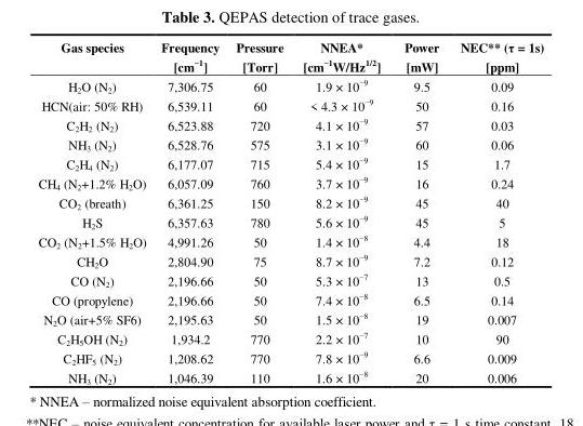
<table><thead><tr><td>Gas species</td><td>Frequency [cm<sup>−1</sup>]</td><td>Pressure [Torr]</td><td>NNEA* [cm<sup>−1</sup>W/Hz<sup>1/2</sup>]</td><td>Power [mW]</td><td>NEC** (τ = 1s) [ppm]</td></tr></thead><tbody><tr><td>H<sub>2</sub>O (N<sub>2</sub>)</td><td>7,306.75</td><td>60</td><td>1.9 × 10<sup>−9</sup></td><td>9.5</td><td>0.09</td></tr><tr><td>HCN(air: 50% RH)</td><td>6,539.11</td><td>60</td><td>&lt; 4.3 × 10<sup>−9</sup></td><td>50</td><td>0.16</td></tr><tr><td>C<sub>2</sub>H<sub>2</sub> (N<sub>2</sub>)</td><td>6,523.88</td><td>720</td><td>4.1 × 10<sup>−9</sup></td><td>57</td><td>0.03</td></tr><tr><td>NH<sub>3</sub> (N<sub>2</sub>)</td><td>6,528.76</td><td>575</td><td>3.1 × 10<sup>−9</sup></td><td>60</td><td>0.06</td></tr><tr><td>C<sub>2</sub>H<sub>4</sub> (N<sub>2</sub>)</td><td>6,177.07</td><td>715</td><td>5.4 × 10<sup>−9</sup></td><td>15</td><td>1.7</td></tr><tr><td>CH<sub>4</sub> (N<sub>2</sub>+1.2% H<sub>2</sub>O)</td><td>6,057.09</td><td>760</td><td>3.7 × 10<sup>−9</sup></td><td>16</td><td>0.24</td></tr><tr><td>CO<sub>2</sub> (breath)</td><td>6,361.25</td><td>150</td><td>8.2 × 10<sup>−9</sup></td><td>45</td><td>40</td></tr><tr><td>H<sub>2</sub>S</td><td>6,357.63</td><td>780</td><td>5.6 × 10<sup>−9</sup></td><td>45</td><td>5</td></tr><tr><td>CO<sub>2</sub> (N<sub>2</sub>+1.5% H<sub>2</sub>O)</td><td>4,991.26</td><td>50</td><td>1.4 × 10<sup>−8</sup></td><td>4.4</td><td>18</td></tr><tr><td>CH<sub>2</sub>O</td><td>2,804.90</td><td>75</td><td>8.7 × 10<sup>−9</sup></td><td>7.2</td><td>0.12</td></tr><tr><td>CO (N<sub>2</sub>)</td><td>2,196.66</td><td>50</td><td>5.3 × 10<sup>−7</sup></td><td>13</td><td>0.5</td></tr><tr><td>CO (propylene)</td><td>2,196.66</td><td>50</td><td>7.4 × 10<sup>−8</sup></td><td>6.5</td><td>0.14</td></tr><tr><td>N<sub>2</sub>O (air+5% SF6)</td><td>2,195.63</td><td>50</td><td>1.5 × 10<sup>−8</sup></td><td>19</td><td>0.007</td></tr><tr><td>C<sub>2</sub>H<sub>5</sub>OH (N<sub>2</sub>)</td><td>1,934.2</td><td>770</td><td>2.2 × 10<sup>−7</sup></td><td>10</td><td>90</td></tr><tr><td>C<sub>2</sub>HF<sub>5</sub> (N<sub>2</sub>)</td><td>1,208.62</td><td>770</td><td>7.8 × 10<sup>−9</sup></td><td>6.6</td><td>0.009</td></tr><tr><td>NH<sub>3</sub> (N<sub>2</sub>)</td><td>1,046.39</td><td>110</td><td>1.6 × 10<sup>−8</sup></td><td>20</td><td>0.006</td></tr></tbody></table>